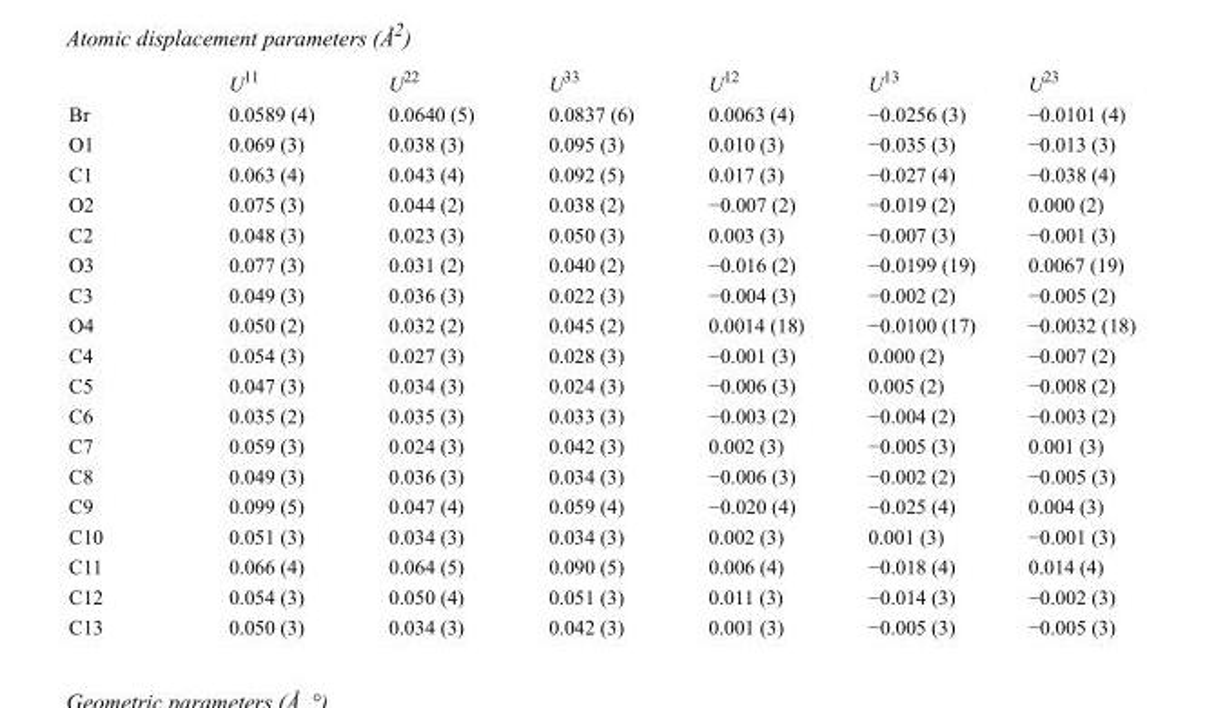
<table><thead><tr><td></td><td>U<sup>11</sup></td><td>U<sup>22</sup></td><td>U<sup>33</sup></td><td>U<sup>12</sup></td><td>U<sup>13</sup></td><td>U<sup>23</sup></td></tr></thead><tbody><tr><td>Br</td><td>0.0589 (4)</td><td>0.0640 (5)</td><td>0.0837 (6)</td><td>0.0063 (4)</td><td>−0.0256 (3)</td><td>−0.0101 (4)</td></tr><tr><td>O1</td><td>0.069 (3)</td><td>0.038 (3)</td><td>0.095 (3)</td><td>0.010 (3)</td><td>−0.035 (3)</td><td>−0.013 (3)</td></tr><tr><td>C1</td><td>0.063 (4)</td><td>0.043 (4)</td><td>0.092 (5)</td><td>0.017 (3)</td><td>−0.027 (4)</td><td>−0.038 (4)</td></tr><tr><td>O2</td><td>0.075 (3)</td><td>0.044 (2)</td><td>0.038 (2)</td><td>−0.007 (2)</td><td>−0.019 (2)</td><td>0.000 (2)</td></tr><tr><td>C2</td><td>0.048 (3)</td><td>0.023 (3)</td><td>0.050 (3)</td><td>0.003 (3)</td><td>−0.007 (3)</td><td>−0.001 (3)</td></tr><tr><td>O3</td><td>0.077 (3)</td><td>0.031 (2)</td><td>0.040 (2)</td><td>−0.016 (2)</td><td>−0.0199 (19)</td><td>0.0067 (19)</td></tr><tr><td>C3</td><td>0.049 (3)</td><td>0.036 (3)</td><td>0.022 (3)</td><td>−0.004 (3)</td><td>−0.002 (2)</td><td>−0.005 (2)</td></tr><tr><td>O4</td><td>0.050 (2)</td><td>0.032 (2)</td><td>0.045 (2)</td><td>0.0014 (18)</td><td>−0.0100 (17)</td><td>−0.0032 (18)</td></tr><tr><td>C4</td><td>0.054 (3)</td><td>0.027 (3)</td><td>0.028 (3)</td><td>−0.001 (3)</td><td>0.000 (2)</td><td>−0.007 (2)</td></tr><tr><td>C5</td><td>0.047 (3)</td><td>0.034 (3)</td><td>0.024 (3)</td><td>−0.006 (3)</td><td>0.005 (2)</td><td>−0.008 (2)</td></tr><tr><td>C6</td><td>0.035 (2)</td><td>0.035 (3)</td><td>0.033 (3)</td><td>−0.003 (2)</td><td>−0.004 (2)</td><td>−0.003 (2)</td></tr><tr><td>C7</td><td>0.059 (3)</td><td>0.024 (3)</td><td>0.042 (3)</td><td>0.002 (3)</td><td>−0.005 (3)</td><td>0.001 (3)</td></tr><tr><td>C8</td><td>0.049 (3)</td><td>0.036 (3)</td><td>0.034 (3)</td><td>−0.006 (3)</td><td>−0.002 (2)</td><td>−0.005 (3)</td></tr><tr><td>C9</td><td>0.099 (5)</td><td>0.047 (4)</td><td>0.059 (4)</td><td>−0.020 (4)</td><td>−0.025 (4)</td><td>0.004 (3)</td></tr><tr><td>C10</td><td>0.051 (3)</td><td>0.034 (3)</td><td>0.034 (3)</td><td>0.002 (3)</td><td>0.001 (3)</td><td>−0.001 (3)</td></tr><tr><td>C11</td><td>0.066 (4)</td><td>0.064 (5)</td><td>0.090 (5)</td><td>0.006 (4)</td><td>−0.018 (4)</td><td>0.014 (4)</td></tr><tr><td>C12</td><td>0.054 (3)</td><td>0.050 (4)</td><td>0.051 (3)</td><td>0.011 (3)</td><td>−0.014 (3)</td><td>−0.002 (3)</td></tr><tr><td>C13</td><td>0.050 (3)</td><td>0.034 (3)</td><td>0.042 (3)</td><td>0.001 (3)</td><td>−0.005 (3)</td><td>−0.005 (3)</td></tr></tbody></table>